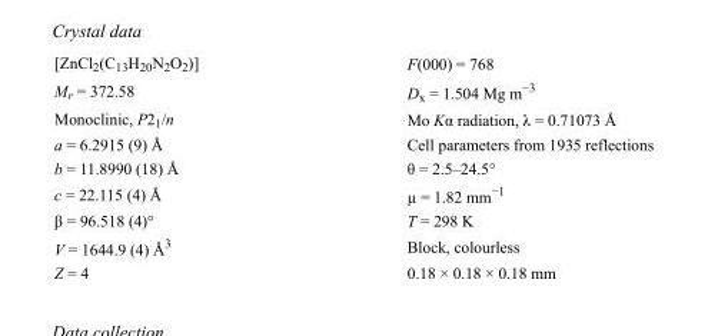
<table><tbody><tr><td>[ZnCl<sub>2</sub>(C<sub>13</sub>H<sub>20</sub>N<sub>2</sub>O<sub>2</sub>)]</td><td>F(000) = 768</td></tr><tr><td>M<sub>r</sub> = 372.58</td><td>D<sub>x</sub> = 1.504 Mg m<sup>−3</sup></td></tr><tr><td>Monoclinic, P2<sub>1</sub>/n</td><td>Mo Kα radiation, λ = 0.71073 Å</td></tr><tr><td>a = 6.2915 (9) Å</td><td>Cell parameters from 1935 reflections</td></tr><tr><td>b = 11.8990 (18) Å</td><td>θ = 2.5–24.5°</td></tr><tr><td>c = 22.115 (4) Å</td><td>µ = 1.82 mm<sup>−1</sup></td></tr><tr><td>β = 96.518 (4)°</td><td>T = 298 K</td></tr><tr><td>V = 1644.9 (4) Å<sup>3</sup></td><td>Block, colourless</td></tr><tr><td>Z = 4</td><td>0.18 × 0.18 × 0.18 mm</td></tr></tbody></table>